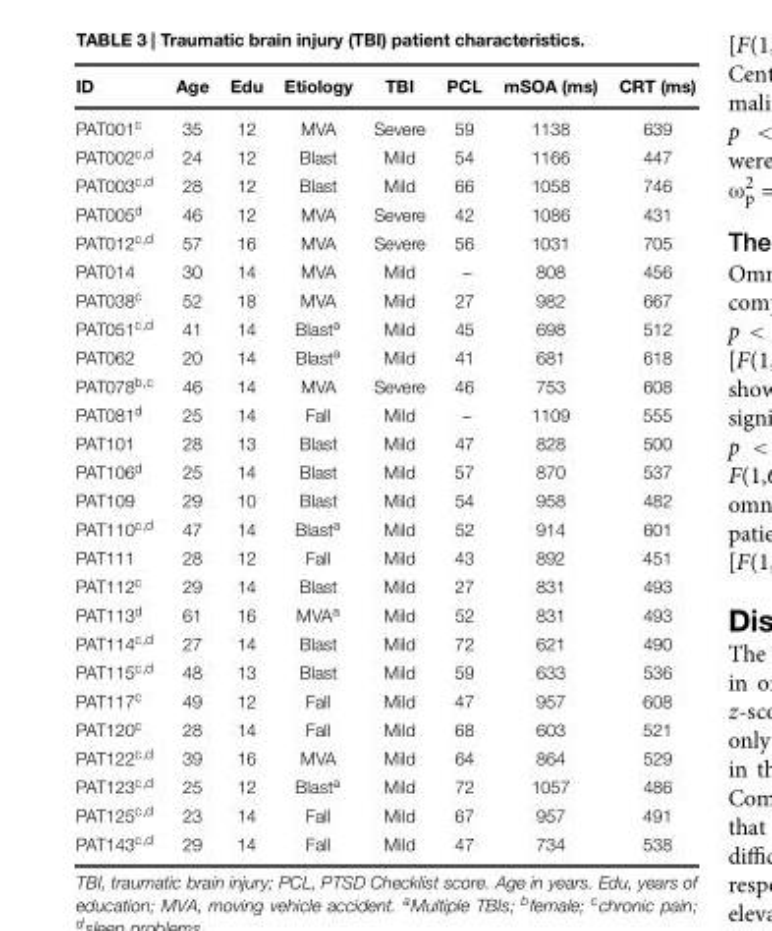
<table><thead><tr><td>ID</td><td>Age</td><td>Edu</td><td>Etiology</td><td>TBI</td><td>PCL</td><td>mSOA (ms)</td><td>CRT (ms)</td></tr></thead><tbody><tr><td>PAT001<sup>c</sup></td><td>35</td><td>12</td><td>MVA</td><td>Severe</td><td>59</td><td>1138</td><td>639</td></tr><tr><td>PAT002<sup>c,d</sup></td><td>24</td><td>12</td><td>Blast</td><td>Mild</td><td>54</td><td>1166</td><td>447</td></tr><tr><td>PAT003<sup>c,d</sup></td><td>28</td><td>12</td><td>Blast</td><td>Mild</td><td>66</td><td>1058</td><td>746</td></tr><tr><td>PAT005<sup>d</sup></td><td>46</td><td>12</td><td>MVA</td><td>Severe</td><td>42</td><td>1086</td><td>431</td></tr><tr><td>PAT012<sup>c,d</sup></td><td>57</td><td>16</td><td>MVA</td><td>Severe</td><td>56</td><td>1031</td><td>705</td></tr><tr><td>PAT014</td><td>30</td><td>14</td><td>MVA</td><td>Mild</td><td>–</td><td>808</td><td>456</td></tr><tr><td>PAT038<sup>c</sup></td><td>52</td><td>18</td><td>MVA</td><td>Mild</td><td>27</td><td>982</td><td>667</td></tr><tr><td>PAT051<sup>c,d</sup></td><td>41</td><td>14</td><td>Blast<sup>a</sup></td><td>Mild</td><td>45</td><td>698</td><td>512</td></tr><tr><td>PAT062</td><td>20</td><td>14</td><td>Blast<sup>a</sup></td><td>Mild</td><td>41</td><td>681</td><td>618</td></tr><tr><td>PAT078<sup>b,c</sup></td><td>46</td><td>14</td><td>MVA</td><td>Severe</td><td>46</td><td>753</td><td>608</td></tr><tr><td>PAT081<sup>d</sup></td><td>25</td><td>14</td><td>Fall</td><td>Mild</td><td>–</td><td>1109</td><td>555</td></tr><tr><td>PAT101</td><td>28</td><td>13</td><td>Blast</td><td>Mild</td><td>47</td><td>828</td><td>500</td></tr><tr><td>PAT106<sup>d</sup></td><td>25</td><td>14</td><td>Blast</td><td>Mild</td><td>57</td><td>870</td><td>537</td></tr><tr><td>PAT109</td><td>29</td><td>10</td><td>Blast</td><td>Mild</td><td>54</td><td>958</td><td>482</td></tr><tr><td>PAT110<sup>c,d</sup></td><td>47</td><td>14</td><td>Blast<sup>a</sup></td><td>Mild</td><td>52</td><td>914</td><td>601</td></tr><tr><td>PAT111</td><td>28</td><td>12</td><td>Fall</td><td>Mild</td><td>43</td><td>892</td><td>451</td></tr><tr><td>PAT112<sup>c</sup></td><td>29</td><td>14</td><td>Blast</td><td>Mild</td><td>27</td><td>831</td><td>493</td></tr><tr><td>PAT113<sup>d</sup></td><td>61</td><td>16</td><td>MVA<sup>a</sup></td><td>Mild</td><td>52</td><td>831</td><td>493</td></tr><tr><td>PAT114<sup>c,d</sup></td><td>27</td><td>14</td><td>Blast</td><td>Mild</td><td>72</td><td>621</td><td>490</td></tr><tr><td>PAT115<sup>c,d</sup></td><td>48</td><td>13</td><td>Blast</td><td>Mild</td><td>59</td><td>633</td><td>536</td></tr><tr><td>PAT117<sup>c</sup></td><td>49</td><td>12</td><td>Fall</td><td>Mild</td><td>47</td><td>957</td><td>608</td></tr><tr><td>PAT120<sup>c</sup></td><td>28</td><td>14</td><td>Fall</td><td>Mild</td><td>68</td><td>603</td><td>521</td></tr><tr><td>PAT122<sup>c,d</sup></td><td>39</td><td>16</td><td>MVA</td><td>Mild</td><td>64</td><td>864</td><td>529</td></tr><tr><td>PAT123<sup>c,d</sup></td><td>25</td><td>12</td><td>Blast<sup>a</sup></td><td>Mild</td><td>72</td><td>1057</td><td>486</td></tr><tr><td>PAT125<sup>c,d</sup></td><td>23</td><td>14</td><td>Fall</td><td>Mild</td><td>67</td><td>957</td><td>491</td></tr><tr><td>PAT143<sup>c,d</sup></td><td>29</td><td>14</td><td>Fall</td><td>Mild</td><td>47</td><td>734</td><td>538</td></tr></tbody></table>